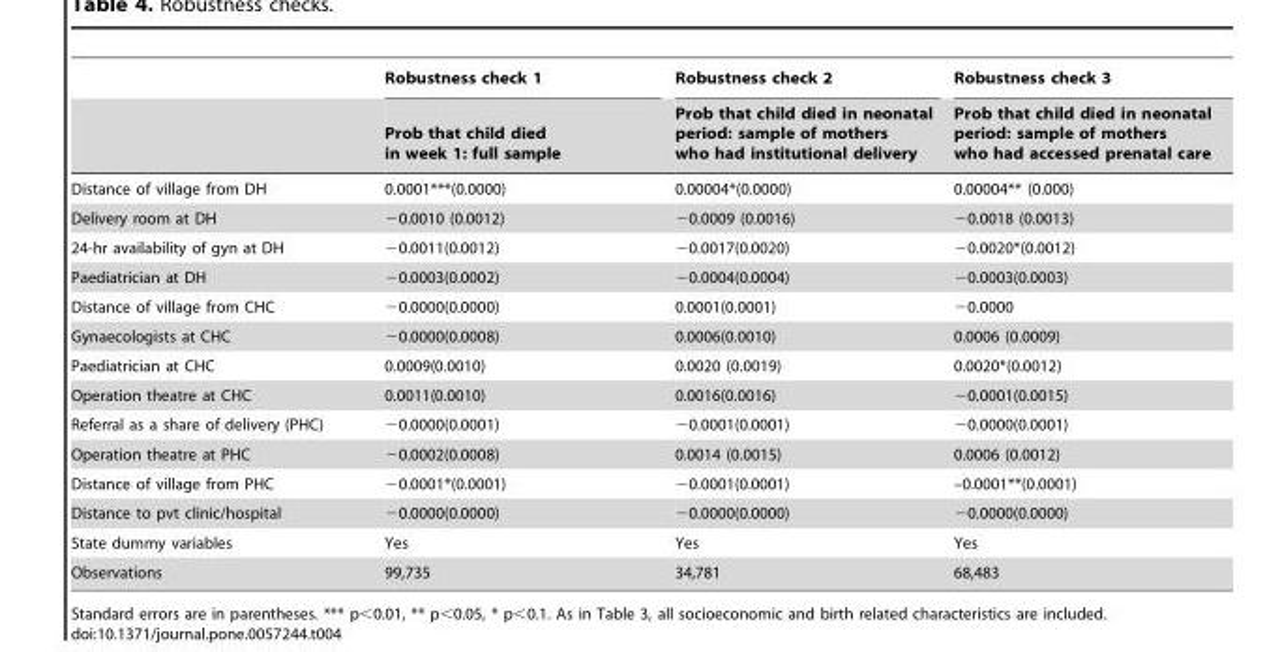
<table><thead><tr><td rowspan="2"></td><td rowspan="2">Robustness check 1 Prob that child died in week 1: full sample</td><td rowspan="2">Robustness check 2 Prob that child died in neonatal period: sample of mothers who had institutional delivery</td><td rowspan="2">Robustness check 3 Prob that child died in neonatal period: sample of mothers who had accessed prenatal care</td></tr><tr></tr></thead><tbody><tr><td>Distance of village from DH</td><td>0.0001***(0.0000)</td><td>0.00004*(0.0000)</td><td>0.00004** (0.000)</td></tr><tr><td>Delivery room at DH</td><td>−0.0010 (0.0012)</td><td>−0.0009 (0.0016)</td><td>−0.0018 (0.0013)</td></tr><tr><td>24-hr availability of gyn at DH</td><td>−0.0011(0.0012)</td><td>−0.0017(0.0020)</td><td>−0.0020*(0.0012)</td></tr><tr><td>Paediatrician at DH</td><td>−0.0003(0.0002)</td><td>−0.0004(0.0004)</td><td>−0.0003(0.0003)</td></tr><tr><td>Distance of village from CHC</td><td>−0.0000(0.0000)</td><td>0.0001(0.0001)</td><td>−0.0000</td></tr><tr><td>Gynaecologists at CHC</td><td>−0.0000(0.0008)</td><td>0.0006(0.0010)</td><td>0.0006 (0.0009)</td></tr><tr><td>Paediatrician at CHC</td><td>0.0009(0.0010)</td><td>0.0020 (0.0019)</td><td>0.0020*(0.0012)</td></tr><tr><td>Operation theatre at CHC</td><td>0.0011(0.0010)</td><td>0.0016(0.0016)</td><td>−0.0001(0.0015)</td></tr><tr><td>Referral as a share of delivery (PHC)</td><td>−0.0000(0.0001)</td><td>−0.0001(0.0001)</td><td>−0.0000(0.0001)</td></tr><tr><td>Operation theatre at PHC</td><td>−0.0002(0.0008)</td><td>0.0014 (0.0015)</td><td>0.0006 (0.0012)</td></tr><tr><td>Distance of village from PHC</td><td>−0.0001*(0.0001)</td><td>−0.0001(0.0001)</td><td>–0.0001**(0.0001)</td></tr><tr><td>Distance to pvt clinic/hospital</td><td>−0.0000(0.0000)</td><td>−0.0000(0.0000)</td><td>−0.0000(0.0000)</td></tr><tr><td>State dummy variables</td><td>Yes</td><td>Yes</td><td>Yes</td></tr><tr><td>Observations</td><td>99,735</td><td>34,781</td><td>68,483</td></tr></tbody></table>